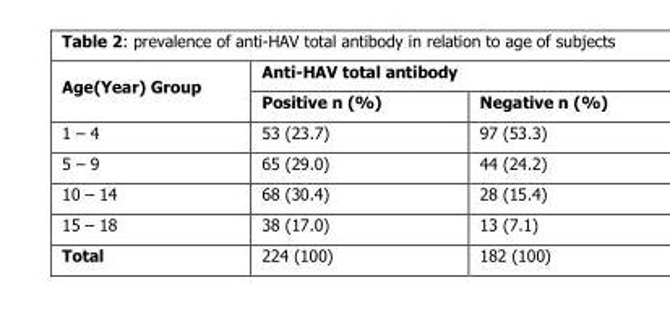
<table><thead><tr><td rowspan="2">Age(Year) Group</td><td colspan="2">Anti-HAV total antibody</td></tr><tr><td>Positive n (%)</td><td>Negative n (%)</td></tr></thead><tbody><tr><td>1 – 4</td><td>53 (23.7)</td><td>97 (53.3)</td></tr><tr><td>5 – 9</td><td>65 (29.0)</td><td>44 (24.2)</td></tr><tr><td>10 – 14</td><td>68 (30.4)</td><td>28 (15.4)</td></tr><tr><td>15 – 18</td><td>38 (17.0)</td><td>13 (7.1)</td></tr><tr><td>Total</td><td>224 (100)</td><td>182 (100)</td></tr></tbody></table>